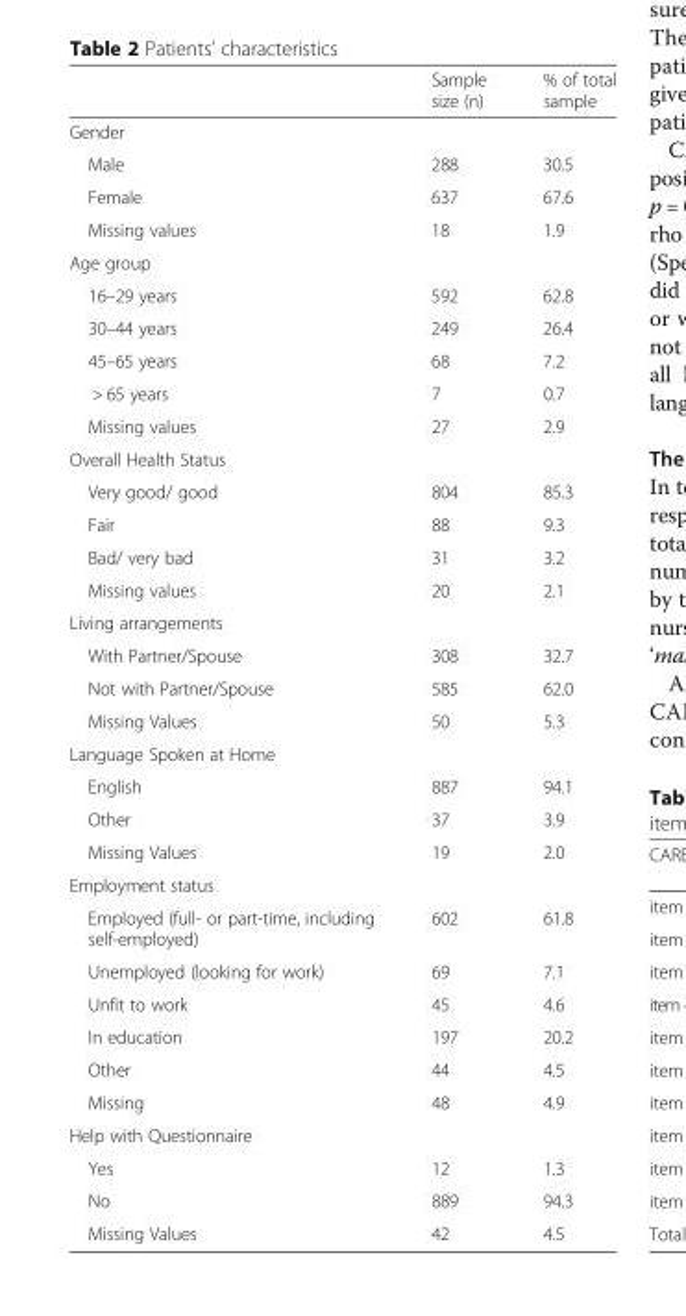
<table><thead><tr><td></td><td>Sample size (n)</td><td>% of total sample</td></tr></thead><tbody><tr><td colspan="3">Gender</td></tr><tr><td>Male</td><td>288</td><td>30.5</td></tr><tr><td>Female</td><td>637</td><td>67.6</td></tr><tr><td>Missing values</td><td>18</td><td>1.9</td></tr><tr><td colspan="3">Age group</td></tr><tr><td>16–29 years</td><td>592</td><td>62.8</td></tr><tr><td>30–44 years</td><td>249</td><td>26.4</td></tr><tr><td>45–65 years</td><td>68</td><td>7.2</td></tr><tr><td>&gt; 65 years</td><td>7</td><td>0.7</td></tr><tr><td>Missing values</td><td>27</td><td>2.9</td></tr><tr><td colspan="3">Overall Health Status</td></tr><tr><td>Very good/ good</td><td>804</td><td>85.3</td></tr><tr><td>Fair</td><td>88</td><td>9.3</td></tr><tr><td>Bad/ very bad</td><td>31</td><td>3.2</td></tr><tr><td>Missing values</td><td>20</td><td>2.1</td></tr><tr><td colspan="3">Living arrangements</td></tr><tr><td>With Partner/Spouse</td><td>308</td><td>32.7</td></tr><tr><td>Not with Partner/Spouse</td><td>585</td><td>62.0</td></tr><tr><td>Missing Values</td><td>50</td><td>5.3</td></tr><tr><td colspan="3">Language Spoken at Home</td></tr><tr><td>English</td><td>887</td><td>94.1</td></tr><tr><td>Other</td><td>37</td><td>3.9</td></tr><tr><td>Missing Values</td><td>19</td><td>2.0</td></tr><tr><td colspan="3">Employment status</td></tr><tr><td>Employed (full- or part-time, including self-employed)</td><td>602</td><td>61.8</td></tr><tr><td>Unemployed (looking for work)</td><td>69</td><td>7.1</td></tr><tr><td>Unfit to work</td><td>45</td><td>4.6</td></tr><tr><td>In education</td><td>197</td><td>20.2</td></tr><tr><td>Other</td><td>44</td><td>4.5</td></tr><tr><td>Missing</td><td>48</td><td>4.9</td></tr><tr><td colspan="3">Help with Questionnaire</td></tr><tr><td>Yes</td><td>12</td><td>1.3</td></tr><tr><td>No</td><td>889</td><td>94.3</td></tr><tr><td>Missing Values</td><td>42</td><td>4.5</td></tr></tbody></table>